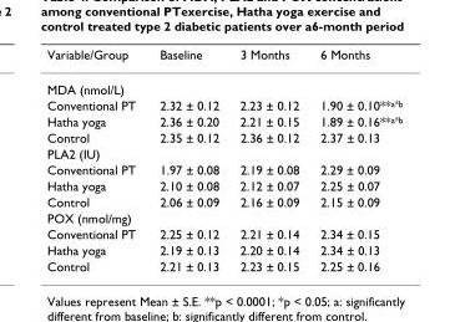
<table><thead><tr><td>Variable/Group</td><td>Baseline</td><td>3 Months</td><td>6 Months</td></tr></thead><tbody><tr><td colspan="4">MDA (nmol/L)</td></tr><tr><td>Conventional PT</td><td>2.32 ± 0.12</td><td>2.23 ± 0.12</td><td>1.90 ± 0.10**<sup>a*b</sup></td></tr><tr><td>Hatha yoga</td><td>2.36 ± 0.20</td><td>2.21 ± 0.15</td><td>1.89 ± 0.16**<sup>a*b</sup></td></tr><tr><td>Control</td><td>2.35 ± 0.12</td><td>2.36 ± 0.12</td><td>2.37 ± 0.13</td></tr><tr><td colspan="4">PLA2 (IU)</td></tr><tr><td>Conventional PT</td><td>1.97 ± 0.08</td><td>2.19 ± 0.08</td><td>2.29 ± 0.09</td></tr><tr><td>Hatha yoga</td><td>2.10 ± 0.08</td><td>2.12 ± 0.07</td><td>2.25 ± 0.07</td></tr><tr><td>Control</td><td>2.06 ± 0.09</td><td>2.16 ± 0.09</td><td>2.15 ± 0.09</td></tr><tr><td colspan="4">POX (nmol/mg)</td></tr><tr><td>Conventional PT</td><td>2.25 ± 0.12</td><td>2.21 ± 0.14</td><td>2.34 ± 0.15</td></tr><tr><td>Hatha yoga</td><td>2.19 ± 0.13</td><td>2.20 ± 0.14</td><td>2.34 ± 0.13</td></tr><tr><td>Control</td><td>2.21 ± 0.13</td><td>2.23 ± 0.15</td><td>2.25 ± 0.16</td></tr></tbody></table>